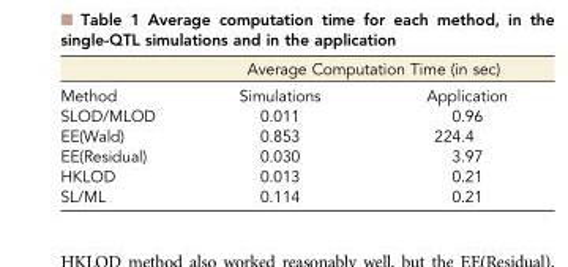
<table><thead><tr><td rowspan="2">Method</td><td colspan="2">Average Computation Time (in sec)</td></tr><tr><td>Simulations</td><td>Application</td></tr></thead><tbody><tr><td>SLOD/MLOD</td><td>0.011</td><td>0.96</td></tr><tr><td>EE(Wald)</td><td>0.853</td><td>224.4</td></tr><tr><td>EE(Residual)</td><td>0.030</td><td>3.97</td></tr><tr><td>HKLOD</td><td>0.013</td><td>0.21</td></tr><tr><td>SL/ML</td><td>0.114</td><td>0.21</td></tr></tbody></table>